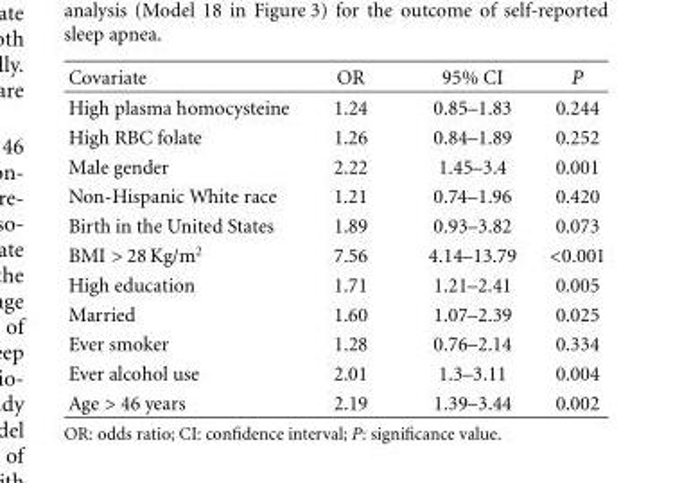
<table><thead><tr><td>Covariate</td><td>OR</td><td>95% CI</td><td>P</td></tr></thead><tbody><tr><td>High plasma homocysteine</td><td>1.24</td><td>0.85–1.83</td><td>0.244</td></tr><tr><td>High RBC folate</td><td>1.26</td><td>0.84–1.89</td><td>0.252</td></tr><tr><td>Male gender</td><td>2.22</td><td>1.45–3.4</td><td>0.001</td></tr><tr><td>Non-Hispanic White race</td><td>1.21</td><td>0.74–1.96</td><td>0.420</td></tr><tr><td>Birth in the United States</td><td>1.89</td><td>0.93–3.82</td><td>0.073</td></tr><tr><td>BMI &gt; 28 Kg/m<sup>2</sup></td><td>7.56</td><td>4.14–13.79</td><td>&lt;0.001</td></tr><tr><td>High education</td><td>1.71</td><td>1.21–2.41</td><td>0.005</td></tr><tr><td>Married</td><td>1.60</td><td>1.07–2.39</td><td>0.025</td></tr><tr><td>Ever smoker</td><td>1.28</td><td>0.76–2.14</td><td>0.334</td></tr><tr><td>Ever alcohol use</td><td>2.01</td><td>1.3–3.11</td><td>0.004</td></tr><tr><td>Age &gt; 46 years</td><td>2.19</td><td>1.39–3.44</td><td>0.002</td></tr></tbody></table>